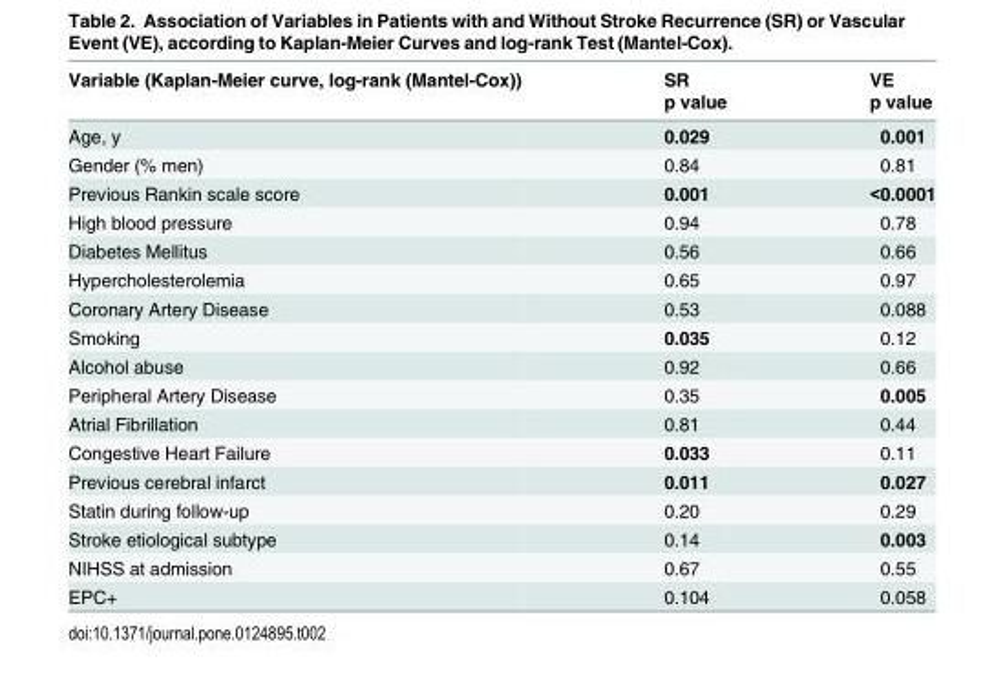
<table><thead><tr><td rowspan="2">Variable (Kaplan-Meier curve, log-rank (Mantel-Cox))</td><td rowspan="2">SR p value</td><td rowspan="2">VE p value</td></tr><tr></tr></thead><tbody><tr><td>Age, y</td><td>0.029</td><td>0.001</td></tr><tr><td>Gender (% men)</td><td>0.84</td><td>0.81</td></tr><tr><td>Previous Rankin scale score</td><td>0.001</td><td>&lt;0.0001</td></tr><tr><td>High blood pressure</td><td>0.94</td><td>0.78</td></tr><tr><td>Diabetes Mellitus</td><td>0.56</td><td>0.66</td></tr><tr><td>Hypercholesterolemia</td><td>0.65</td><td>0.97</td></tr><tr><td>Coronary Artery Disease</td><td>0.53</td><td>0.088</td></tr><tr><td>Smoking</td><td>0.035</td><td>0.12</td></tr><tr><td>Alcohol abuse</td><td>0.92</td><td>0.66</td></tr><tr><td>Peripheral Artery Disease</td><td>0.35</td><td>0.005</td></tr><tr><td>Atrial Fibrillation</td><td>0.81</td><td>0.44</td></tr><tr><td>Congestive Heart Failure</td><td>0.033</td><td>0.11</td></tr><tr><td>Previous cerebral infarct</td><td>0.011</td><td>0.027</td></tr><tr><td>Statin during follow-up</td><td>0.20</td><td>0.29</td></tr><tr><td>Stroke etiological subtype</td><td>0.14</td><td>0.003</td></tr><tr><td>NIHSS at admission</td><td>0.67</td><td>0.55</td></tr><tr><td>EPC+</td><td>0.104</td><td>0.058</td></tr></tbody></table>